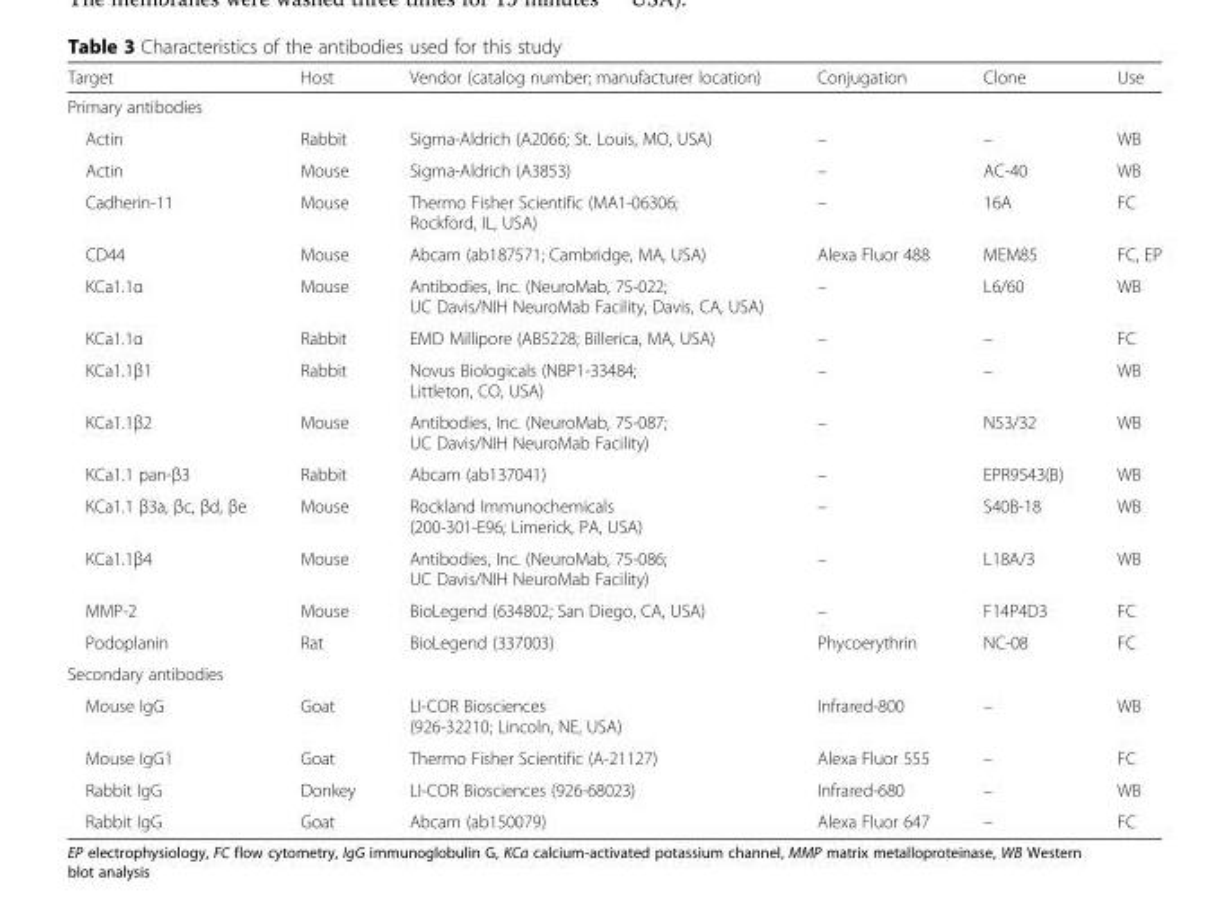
<table><thead><tr><td>Target</td><td>Host</td><td>Vendor (catalog number; manufacturer location)</td><td>Conjugation</td><td>Clone</td><td>Use</td></tr></thead><tbody><tr><td colspan="6">Primary antibodies</td></tr><tr><td>Actin</td><td>Rabbit</td><td>Sigma-Aldrich (A2066; St. Louis, MO, USA)</td><td>–</td><td>–</td><td>WB</td></tr><tr><td>Actin</td><td>Mouse</td><td>Sigma-Aldrich (A3853)</td><td>–</td><td>AC-40</td><td>WB</td></tr><tr><td>Cadherin-11</td><td>Mouse</td><td>Thermo Fisher Scientific (MA1-06306; Rockford, IL, USA)</td><td>–</td><td>16A</td><td>FC</td></tr><tr><td>CD44</td><td>Mouse</td><td>Abcam (ab187571; Cambridge, MA, USA)</td><td>Alexa Fluor 488</td><td>MEM85</td><td>FC, EP</td></tr><tr><td>KCa1.1α</td><td>Mouse</td><td>Antibodies, Inc. (NeuroMab, 75-022; UC Davis/NIH NeuroMab Facility, Davis, CA, USA)</td><td>–</td><td>L6/60</td><td>WB</td></tr><tr><td>KCa1.1α</td><td>Rabbit</td><td>EMD Millipore (AB5228; Billerica, MA, USA)</td><td>–</td><td>–</td><td>FC</td></tr><tr><td>KCa1.1β1</td><td>Rabbit</td><td>Novus Biologicals (NBP1-33484; Littleton, CO, USA)</td><td>–</td><td>–</td><td>WB</td></tr><tr><td>KCa1.1β2</td><td>Mouse</td><td>Antibodies, Inc. (NeuroMab, 75-087; UC Davis/NIH NeuroMab Facility)</td><td>–</td><td>N53/32</td><td>WB</td></tr><tr><td>KCa1.1 pan-β3</td><td>Rabbit</td><td>Abcam (ab137041)</td><td>–</td><td>EPR9543(B)</td><td>WB</td></tr><tr><td>KCa1.1 β3a, βc, βd, βe</td><td>Mouse</td><td>Rockland Immunochemicals (200-301-E96; Limerick, PA, USA)</td><td>–</td><td>S40B-18</td><td>WB</td></tr><tr><td>KCa1.1β4</td><td>Mouse</td><td>Antibodies, Inc. (NeuroMab, 75-086; UC Davis/NIH NeuroMab Facility)</td><td>–</td><td>L18A/3</td><td>WB</td></tr><tr><td>MMP-2</td><td>Mouse</td><td>BioLegend (634802; San Diego, CA, USA)</td><td>–</td><td>F14P4D3</td><td>FC</td></tr><tr><td>Podoplanin</td><td>Rat</td><td>BioLegend (337003)</td><td>Phycoerythrin</td><td>NC-08</td><td>FC</td></tr><tr><td colspan="6">Secondary antibodies</td></tr><tr><td>Mouse IgG</td><td>Goat</td><td>LI-COR Biosciences (926-32210; Lincoln, NE, USA)</td><td>Infrared-800</td><td>–</td><td>WB</td></tr><tr><td>Mouse IgG1</td><td>Goat</td><td>Thermo Fisher Scientific (A-21127)</td><td>Alexa Fluor 555</td><td>–</td><td>FC</td></tr><tr><td>Rabbit IgG</td><td>Donkey</td><td>LI-COR Biosciences (926-68023)</td><td>Infrared-680</td><td>–</td><td>WB</td></tr><tr><td>Rabbit IgG</td><td>Goat</td><td>Abcam (ab150079)</td><td>Alexa Fluor 647</td><td>–</td><td>FC</td></tr></tbody></table>